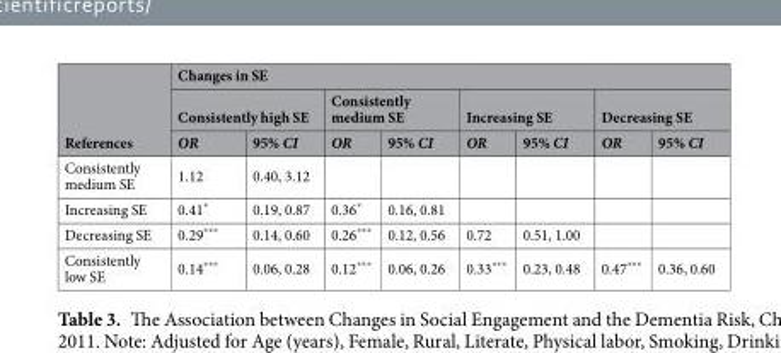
<table><thead><tr><td rowspan="3">References</td><td colspan="8">Changes in SE</td></tr><tr><td colspan="2">Consistently high SE</td><td colspan="2">Consistently medium SE</td><td colspan="2">Increasing SE</td><td colspan="2">Decreasing SE</td></tr><tr><td>OR</td><td>95% CI</td><td>OR</td><td>95% CI</td><td>OR</td><td>95% CI</td><td>OR</td><td>95% CI</td></tr></thead><tbody><tr><td>Consistently medium SE</td><td>1.12</td><td>0.40, 3.12</td><td></td><td></td><td></td><td></td><td></td><td></td></tr><tr><td>Increasing SE</td><td>0.41*</td><td>0.19, 0.87</td><td>0.36*</td><td>0.16, 0.81</td><td></td><td></td><td></td><td></td></tr><tr><td>Decreasing SE</td><td>0.29***</td><td>0.14, 0.60</td><td>0.26***</td><td>0.12, 0.56</td><td>0.72</td><td>0.51, 1.00</td><td></td><td></td></tr><tr><td>Consistently low SE</td><td>0.14***</td><td>0.06, 0.28</td><td>0.12***</td><td>0.06, 0.26</td><td>0.33***</td><td>0.23, 0.48</td><td>0.47***</td><td>0.36, 0.60</td></tr></tbody></table>